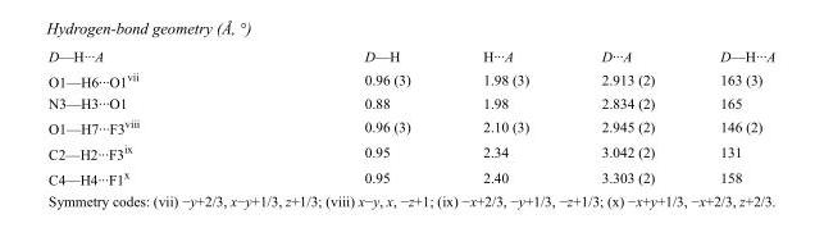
<table><tbody><tr><td>D—H···A</td><td>D—H</td><td>H···A</td><td>D···A</td><td>D—H···A</td></tr><tr><td>O1—H6···O1<sup>vii</sup></td><td>0.96 (3)</td><td>1.98 (3)</td><td>2.913 (2)</td><td>163 (3)</td></tr><tr><td>N3—H3···O1</td><td>0.88</td><td>1.98</td><td>2.834 (2)</td><td>165</td></tr><tr><td>O1—H7···F3<sup>viii</sup></td><td>0.96 (3)</td><td>2.10 (3)</td><td>2.945 (2)</td><td>146 (2)</td></tr><tr><td>C2—H2···F3<sup>ix</sup></td><td>0.95</td><td>2.34</td><td>3.042 (2)</td><td>131</td></tr><tr><td>C4—H4···F1<sup>x</sup></td><td>0.95</td><td>2.40</td><td>3.303 (2)</td><td>158</td></tr></tbody></table>